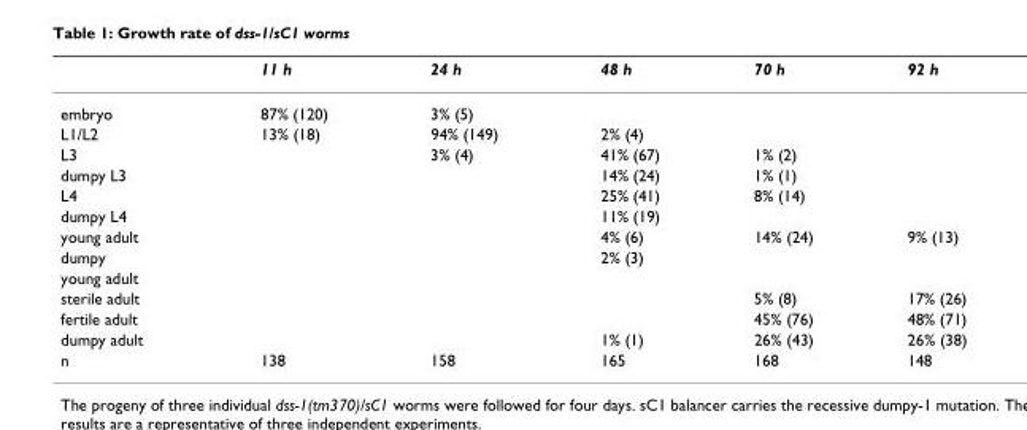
<table><thead><tr><td></td><td>11 h</td><td>24 h</td><td>48 h</td><td>70 h</td><td>92 h</td></tr></thead><tbody><tr><td>embryo</td><td>87% (120)</td><td>3% (5)</td><td></td><td></td><td></td></tr><tr><td>L1/L2</td><td>13% (18)</td><td>94% (149)</td><td>2% (4)</td><td></td><td></td></tr><tr><td>L3</td><td></td><td>3% (4)</td><td>41% (67)</td><td>1% (2)</td><td></td></tr><tr><td>dumpy L3</td><td></td><td></td><td>14% (24)</td><td>1% (1)</td><td></td></tr><tr><td>L4</td><td></td><td></td><td>25% (41)</td><td>8% (14)</td><td></td></tr><tr><td>dumpy L4</td><td></td><td></td><td>11% (19)</td><td></td><td></td></tr><tr><td>young adult</td><td></td><td></td><td>4% (6)</td><td>14% (24)</td><td>9% (13)</td></tr><tr><td>dumpy</td><td></td><td></td><td>2% (3)</td><td></td><td></td></tr><tr><td colspan="6">young adult</td></tr><tr><td>sterile adult</td><td></td><td></td><td></td><td>5% (8)</td><td>17% (26)</td></tr><tr><td>fertile adult</td><td></td><td></td><td></td><td>45% (76)</td><td>48% (71)</td></tr><tr><td>dumpy adult</td><td></td><td></td><td>1% (1)</td><td>26% (43)</td><td>26% (38)</td></tr><tr><td>n</td><td>138</td><td>158</td><td>165</td><td>168</td><td>148</td></tr></tbody></table>